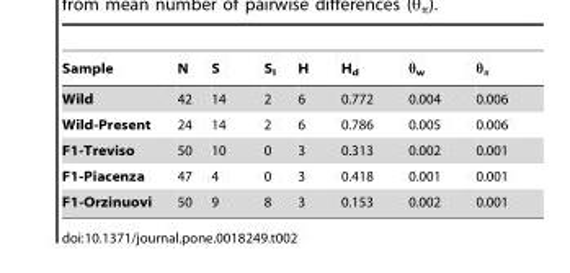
<table><thead><tr><td>Sample</td><td>N</td><td>S</td><td>S<sub>I</sub></td><td>H</td><td>H<sub>d</sub></td><td>θ<sub>w</sub></td><td>θ<sub>π</sub></td></tr></thead><tbody><tr><td>Wild</td><td>42</td><td>14</td><td>2</td><td>6</td><td>0.772</td><td>0.004</td><td>0.006</td></tr><tr><td>Wild-Present</td><td>24</td><td>14</td><td>2</td><td>6</td><td>0.786</td><td>0.005</td><td>0.006</td></tr><tr><td>F1-Treviso</td><td>50</td><td>10</td><td>0</td><td>3</td><td>0.313</td><td>0.002</td><td>0.001</td></tr><tr><td>F1-Piacenza</td><td>47</td><td>4</td><td>0</td><td>3</td><td>0.418</td><td>0.001</td><td>0.001</td></tr><tr><td>F1-Orzinuovi</td><td>50</td><td>9</td><td>8</td><td>3</td><td>0.153</td><td>0.002</td><td>0.001</td></tr></tbody></table>